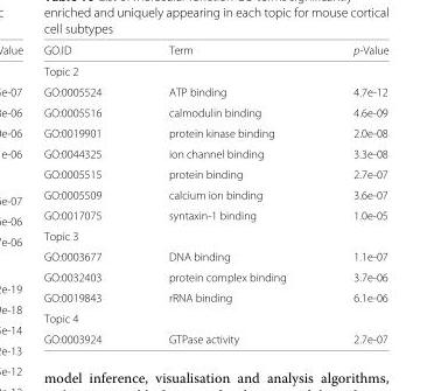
<table><thead><tr><td>GO.ID</td><td>Term</td><td>p-Value</td></tr></thead><tbody><tr><td colspan="3">Topic 2</td></tr><tr><td>GO:0005524</td><td>ATP binding</td><td>4.7e-12</td></tr><tr><td>GO:0005516</td><td>calmodulin binding</td><td>4.6e-09</td></tr><tr><td>GO:0019901</td><td>protein kinase binding</td><td>2.0e-08</td></tr><tr><td>GO:0044325</td><td>ion channel binding</td><td>3.3e-08</td></tr><tr><td>GO:0005515</td><td>protein binding</td><td>2.7e-07</td></tr><tr><td>GO:0005509</td><td>calcium ion binding</td><td>3.6e-07</td></tr><tr><td>GO:0017075</td><td>syntaxin-1 binding</td><td>1.0e-05</td></tr><tr><td colspan="3">Topic 3</td></tr><tr><td>GO:0003677</td><td>DNA binding</td><td>1.1e-07</td></tr><tr><td>GO:0032403</td><td>protein complex binding</td><td>3.7e-06</td></tr><tr><td>GO:0019843</td><td>rRNA binding</td><td>6.1e-06</td></tr><tr><td colspan="3">Topic 4</td></tr><tr><td>GO:0003924</td><td>GTPase activity</td><td>2.7e-07</td></tr></tbody></table>